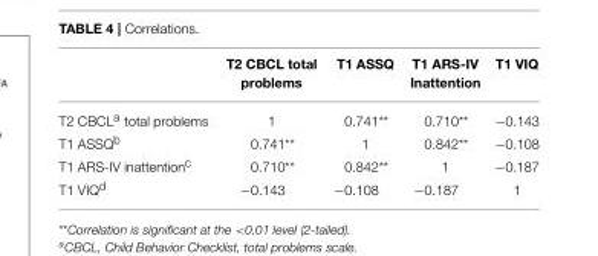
<table><thead><tr><td></td><td>T2 CBCL total problems</td><td>T1 ASSQ</td><td>T1 ARS-IV Inattention</td><td>T1 VIQ</td></tr></thead><tbody><tr><td>T2 CBCL<sup>a</sup> total problems</td><td>1</td><td>0.741**</td><td>0.710**</td><td>−0.143</td></tr><tr><td>T1 ASSQ<sup>b</sup></td><td>0.741**</td><td>1</td><td>0.842**</td><td>−0.108</td></tr><tr><td>T1 ARS-IV inattention<sup>c</sup></td><td>0.710**</td><td>0.842**</td><td>1</td><td>−0.187</td></tr><tr><td>T1 VIQ<sup>d</sup></td><td>−0.143</td><td>−0.108</td><td>−0.187</td><td>1</td></tr></tbody></table>